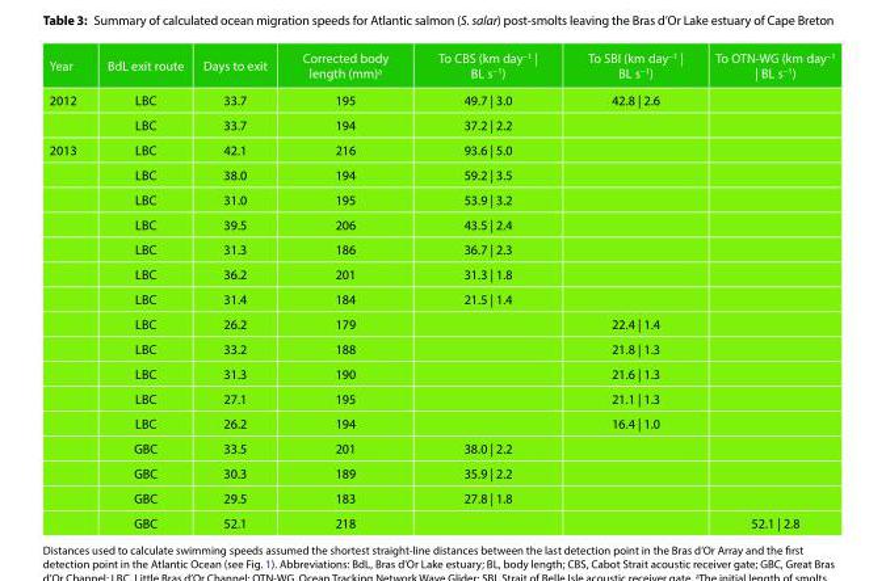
<table><thead><tr><td>Year</td><td>BdL exit route</td><td>Days to exit</td><td>Corrected body length (mm)<sup>a</sup></td><td>To CBS (km day<sup>−1</sup> | BL s<sup>−1</sup>)</td><td>To SBI (km day<sup>−1</sup> | BL s<sup>−1</sup>)</td><td>To OTN-WG (km day<sup>−1</sup> | BL s<sup>−1</sup>)</td></tr></thead><tbody><tr><td rowspan="2">2012</td><td>LBC</td><td>33.7</td><td>195</td><td>49.7 | 3.0</td><td>42.8 | 2.6</td><td></td></tr><tr><td>LBC</td><td>33.7</td><td>194</td><td>37.2 | 2.2</td><td></td><td></td></tr><tr><td rowspan="16">2013</td><td>LBC</td><td>42.1</td><td>216</td><td>93.6 | 5.0</td><td></td><td></td></tr><tr><td>LBC</td><td>38.0</td><td>194</td><td>59.2 | 3.5</td><td></td><td></td></tr><tr><td>LBC</td><td>31.0</td><td>195</td><td>53.9 | 3.2</td><td></td><td></td></tr><tr><td>LBC</td><td>39.5</td><td>206</td><td>43.5 | 2.4</td><td></td><td></td></tr><tr><td>LBC</td><td>31.3</td><td>186</td><td>36.7 | 2.3</td><td></td><td></td></tr><tr><td>LBC</td><td>36.2</td><td>201</td><td>31.3 | 1.8</td><td></td><td></td></tr><tr><td>LBC</td><td>31.4</td><td>184</td><td>21.5 | 1.4</td><td></td><td></td></tr><tr><td>LBC</td><td>26.2</td><td>179</td><td></td><td>22.4 | 1.4</td><td></td></tr><tr><td>LBC</td><td>33.2</td><td>188</td><td></td><td>21.8 | 1.3</td><td></td></tr><tr><td>LBC</td><td>31.3</td><td>190</td><td></td><td>21.6 | 1.3</td><td></td></tr><tr><td>LBC</td><td>27.1</td><td>195</td><td></td><td>21.1 | 1.3</td><td></td></tr><tr><td>LBC</td><td>26.2</td><td>194</td><td></td><td>16.4 | 1.0</td><td></td></tr><tr><td>GBC</td><td>33.5</td><td>201</td><td>38.0 | 2.2</td><td></td><td></td></tr><tr><td>GBC</td><td>30.3</td><td>189</td><td>35.9 | 2.2</td><td></td><td></td></tr><tr><td>GBC</td><td>29.5</td><td>183</td><td>27.8 | 1.8</td><td></td><td></td></tr><tr><td>GBC</td><td>52.1</td><td>218</td><td></td><td></td><td>52.1 | 2.8</td></tr></tbody></table>